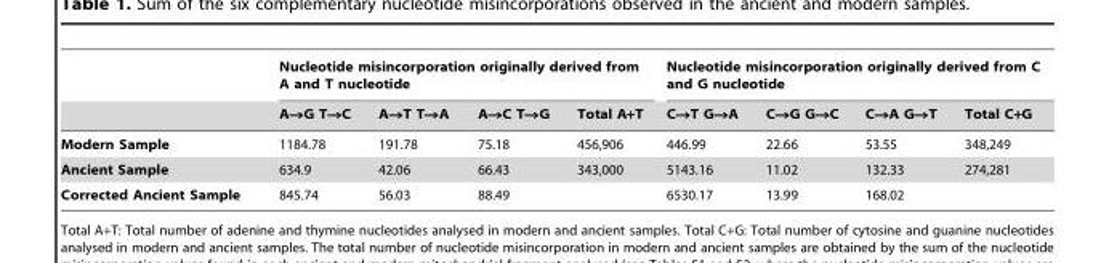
<table><thead><tr><td rowspan="2"></td><td colspan="4">Nucleotide misincorporation originally derived from A and T nucleotide</td><td colspan="4">Nucleotide misincorporation originally derived from C and G nucleotide</td></tr><tr><td>A→G T→C</td><td>A→T T→A</td><td>A→C T→G</td><td>Total A+T</td><td>C→T G→A</td><td>C→G G→C</td><td>C→A G→T</td><td>Total C+G</td></tr></thead><tbody><tr><td>Modern Sample</td><td>1184.78</td><td>191.78</td><td>75.18</td><td>456,906</td><td>446.99</td><td>22.66</td><td>53.55</td><td>348,249</td></tr><tr><td>Ancient Sample</td><td>634.9</td><td>42.06</td><td>66.43</td><td>343,000</td><td>5143.16</td><td>11.02</td><td>132.33</td><td>274,281</td></tr><tr><td>Corrected Ancient Sample</td><td>845.74</td><td>56.03</td><td>88.49</td><td></td><td>6530.17</td><td>13.99</td><td>168.02</td><td></td></tr></tbody></table>